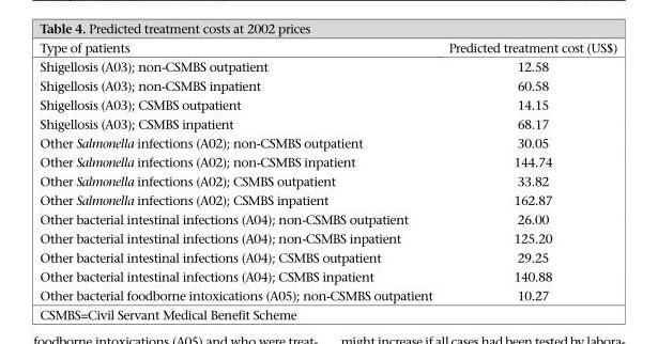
<table><thead><tr><td>Type of patients</td><td>Predicted treatment cost (US$)</td></tr></thead><tbody><tr><td>Shigellosis (A03); non-CSMBS outpatient</td><td>12.58</td></tr><tr><td>Shigellosis (A03); non-CSMBS inpatient</td><td>60.58</td></tr><tr><td>Shigellosis (A03); CSMBS outpatient</td><td>14.15</td></tr><tr><td>Shigellosis (A03); CSMBS inpatient</td><td>68.17</td></tr><tr><td>Other Salmonella infections (A02); non-CSMBS outpatient</td><td>30.05</td></tr><tr><td>Other Salmonella infections (A02); non-CSMBS inpatient</td><td>144.74</td></tr><tr><td>Other Salmonella infections (A02); CSMBS outpatient</td><td>33.82</td></tr><tr><td>Other Salmonella infections (A02); CSMBS inpatient</td><td>162.87</td></tr><tr><td>Other bacterial intestinal infections (A04); non-CSMBS outpatient</td><td>26.00</td></tr><tr><td>Other bacterial intestinal infections (A04); non-CSMBS inpatient</td><td>125.20</td></tr><tr><td>Other bacterial intestinal infections (A04); CSMBS outpatient</td><td>29.25</td></tr><tr><td>Other bacterial intestinal infections (A04); CSMBS inpatient</td><td>140.88</td></tr><tr><td>Other bacterial foodborne intoxications (A05); non-CSMBS outpatient</td><td>10.27</td></tr></tbody></table>